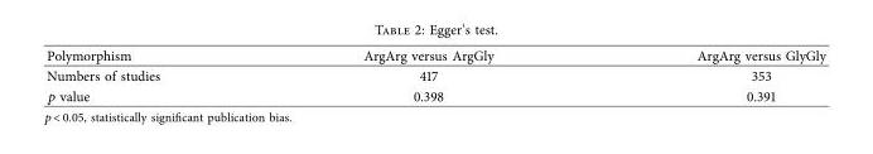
<table><thead><tr><td>Polymorphism</td><td>ArgArg versus ArgGly</td><td>ArgArg versus GlyGly</td></tr></thead><tbody><tr><td>Numbers of studies</td><td>417</td><td>353</td></tr><tr><td>p value</td><td>0.398</td><td>0.391</td></tr></tbody></table>